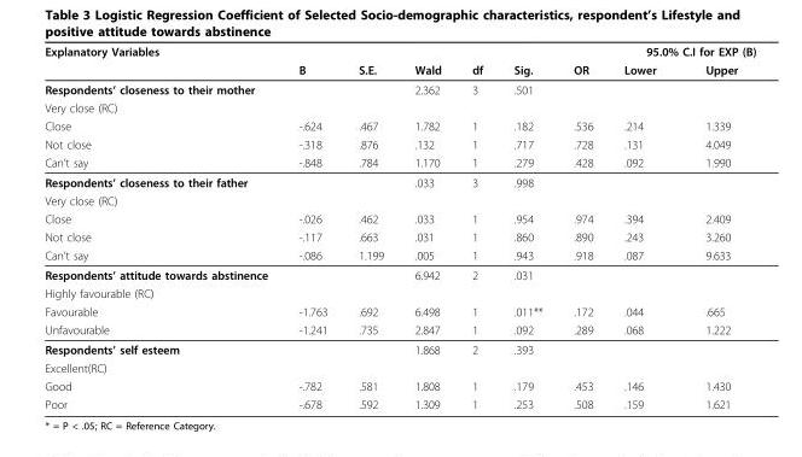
<table><thead><tr><td rowspan="2">Explanatory Variables</td><td rowspan="2">B</td><td rowspan="2">S.E.</td><td rowspan="2">Wald</td><td rowspan="2">df</td><td rowspan="2">Sig.</td><td rowspan="2">OR</td><td colspan="2">95.0% C.I for EXP (B)</td></tr><tr><td>Lower</td><td>Upper</td></tr></thead><tbody><tr><td>Respondents’ closeness to their mother</td><td></td><td></td><td>2.362</td><td>3</td><td>.501</td><td></td><td></td><td></td></tr><tr><td colspan="9">Very close (RC)</td></tr><tr><td>Close</td><td>-.624</td><td>.467</td><td>1.782</td><td>1</td><td>.182</td><td>.536</td><td>.214</td><td>1.339</td></tr><tr><td>Not close</td><td>-.318</td><td>.876</td><td>.132</td><td>1</td><td>.717</td><td>.728</td><td>.131</td><td>4.049</td></tr><tr><td>Can’t say</td><td>-.848</td><td>.784</td><td>1.170</td><td>1</td><td>.279</td><td>.428</td><td>.092</td><td>1.990</td></tr><tr><td>Respondents’ closeness to their father</td><td></td><td></td><td>.033</td><td>3</td><td>.998</td><td></td><td></td><td></td></tr><tr><td colspan="9">Very close (RC)</td></tr><tr><td>Close</td><td>-.026</td><td>.462</td><td>.033</td><td>1</td><td>.954</td><td>.974</td><td>.394</td><td>2.409</td></tr><tr><td>Not close</td><td>-.117</td><td>.663</td><td>.031</td><td>1</td><td>.860</td><td>.890</td><td>.243</td><td>3.260</td></tr><tr><td>Can’t say</td><td>-.086</td><td>1.199</td><td>.005</td><td>1</td><td>.943</td><td>.918</td><td>.087</td><td>9.633</td></tr><tr><td>Respondents’ attitude towards abstinence</td><td></td><td></td><td>6.942</td><td>2</td><td>.031</td><td></td><td></td><td></td></tr><tr><td colspan="9">Highly favourable (RC)</td></tr><tr><td>Favourable</td><td>-1.763</td><td>.692</td><td>6.498</td><td>1</td><td>.011**</td><td>.172</td><td>.044</td><td>.665</td></tr><tr><td>Unfavourable</td><td>-1.241</td><td>.735</td><td>2.847</td><td>1</td><td>.092</td><td>.289</td><td>.068</td><td>1.222</td></tr><tr><td>Respondents’ self esteem</td><td></td><td></td><td>1.868</td><td>2</td><td>.393</td><td></td><td></td><td></td></tr><tr><td colspan="9">Excellent(RC)</td></tr><tr><td>Good</td><td>-.782</td><td>.581</td><td>1.808</td><td>1</td><td>.179</td><td>.453</td><td>.146</td><td>1.430</td></tr><tr><td>Poor</td><td>-.678</td><td>.592</td><td>1.309</td><td>1</td><td>.253</td><td>.508</td><td>.159</td><td>1.621</td></tr></tbody></table>